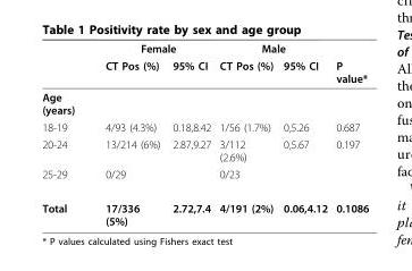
<table><thead><tr><td rowspan="2"></td><td colspan="2">Female</td><td colspan="2">Male</td><td rowspan="2">P value*</td></tr><tr><td>CT Pos (%)</td><td>95% CI</td><td>CT Pos (%)</td><td>95% CI</td></tr></thead><tbody><tr><td colspan="6">Age (years)</td></tr><tr><td>18-19</td><td>4/93 (4.3%)</td><td>0.18,8.42</td><td>1/56 (1.7%)</td><td>0,5.26</td><td>0.687</td></tr><tr><td>20-24</td><td>13/214 (6%)</td><td>2.87,9.27</td><td>3/112 (2.6%)</td><td>0,5.67</td><td>0.197</td></tr><tr><td>25-29</td><td>0/29</td><td></td><td>0/23</td><td></td><td></td></tr><tr><td>Total</td><td>17/336 (5%)</td><td>2.72,7.4</td><td>4/191 (2%)</td><td>0.06,4.12</td><td>0.1086</td></tr></tbody></table>